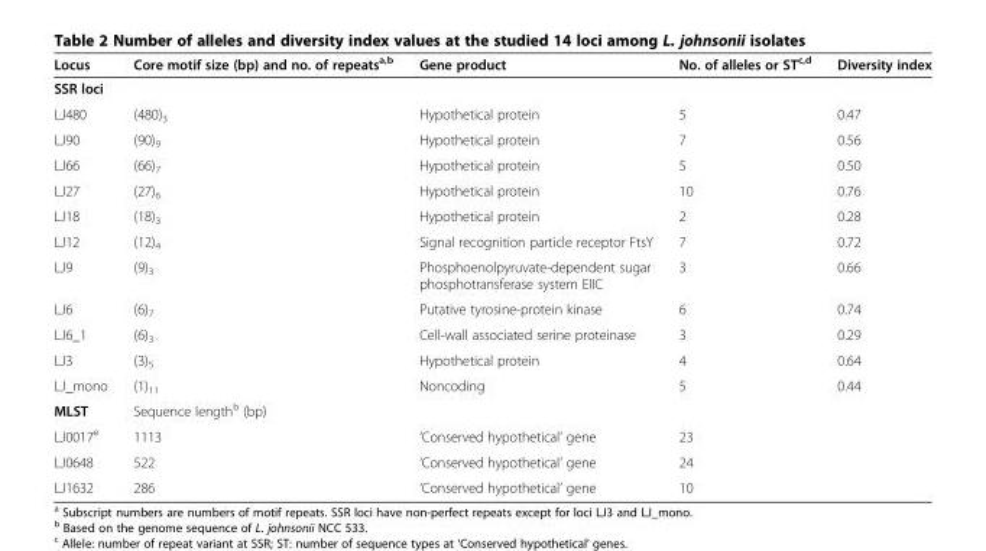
<table><thead><tr><td>Locus</td><td>Core motif size (bp) and no. of repeats<sup>a,b</sup></td><td>Gene product</td><td>No. of alleles or ST<sup>c,d</sup></td><td>Diversity index</td></tr></thead><tbody><tr><td colspan="5">SSR loci</td></tr><tr><td>LJ480</td><td>(480)<sub>3</sub></td><td>Hypothetical protein</td><td>5</td><td>0.47</td></tr><tr><td>LJ90</td><td>(90)<sub>9</sub></td><td>Hypothetical protein</td><td>7</td><td>0.56</td></tr><tr><td>LJ66</td><td>(66)<sub>7</sub></td><td>Hypothetical protein</td><td>5</td><td>0.50</td></tr><tr><td>LJ27</td><td>(27)<sub>6</sub></td><td>Hypothetical protein</td><td>10</td><td>0.76</td></tr><tr><td>LJ18</td><td>(18)<sub>3</sub></td><td>Hypothetical protein</td><td>2</td><td>0.28</td></tr><tr><td>LJ12</td><td>(12)<sub>4</sub></td><td>Signal recognition particle receptor FtsY</td><td>7</td><td>0.72</td></tr><tr><td>LJ9</td><td>(9)<sub>3</sub></td><td>Phosphoenolpyruvate-dependent sugar phosphotransferase system EIIC</td><td>3</td><td>0.66</td></tr><tr><td>LJ6</td><td>(6)<sub>7</sub></td><td>Putative tyrosine-protein kinase</td><td>6</td><td>0.74</td></tr><tr><td>LJ6_1</td><td>(6)<sub>3</sub></td><td>Cell-wall associated serine proteinase</td><td>3</td><td>0.29</td></tr><tr><td>LJ3</td><td>(3)<sub>5</sub></td><td>Hypothetical protein</td><td>4</td><td>0.64</td></tr><tr><td>LJ_mono</td><td>(1)<sub>11</sub></td><td>Noncoding</td><td>5</td><td>0.44</td></tr><tr><td>MLST</td><td colspan="2">Sequence length<sup>b</sup> (bp)</td><td></td><td></td></tr><tr><td>LJ0017<sup>e</sup></td><td>1113</td><td>‘Conserved hypothetical’ gene</td><td>23</td><td></td></tr><tr><td>LJ0648</td><td>522</td><td>‘Conserved hypothetical’ gene</td><td>24</td><td></td></tr><tr><td>LJ1632</td><td>286</td><td>‘Conserved hypothetical’ gene</td><td>10</td><td></td></tr></tbody></table>